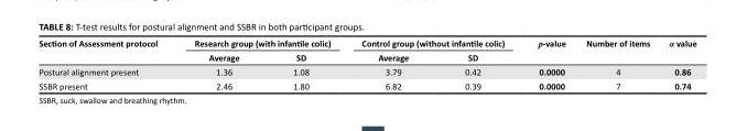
<table><thead><tr><td rowspan="2">Section of Assessment protocol</td><td colspan="2">Research group (with infantile colic)</td><td colspan="2">Control group (without infantile colic)</td><td rowspan="2">p-value</td><td rowspan="2">Number of items</td><td rowspan="2">α value</td></tr><tr><td>Average</td><td>SD</td><td>Average</td><td>SD</td></tr></thead><tbody><tr><td>Postural alignment present</td><td>1.36</td><td>1.08</td><td>3.79</td><td>0.42</td><td>0.0000</td><td>4</td><td>0.86</td></tr><tr><td>SSBR present</td><td>2.46</td><td>1.80</td><td>6.82</td><td>0.39</td><td>0.0000</td><td>7</td><td>0.74</td></tr></tbody></table>